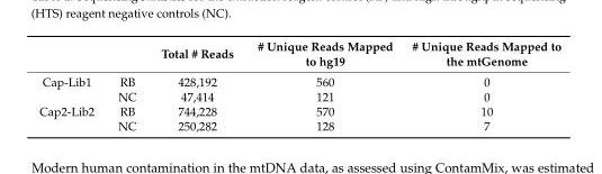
<table><thead><tr><td></td><td></td><td>Total # Reads</td><td># Unique Reads Mapped to hg19</td><td># Unique Reads Mapped to the mtGenome</td></tr></thead><tbody><tr><td rowspan="2">Cap-Lib1</td><td>RB</td><td>428,192</td><td>560</td><td>0</td></tr><tr><td>NC</td><td>47,414</td><td>121</td><td>0</td></tr><tr><td rowspan="2">Cap2-Lib2</td><td>RB</td><td>744,228</td><td>570</td><td>10</td></tr><tr><td>NC</td><td>250,282</td><td>128</td><td>7</td></tr></tbody></table>